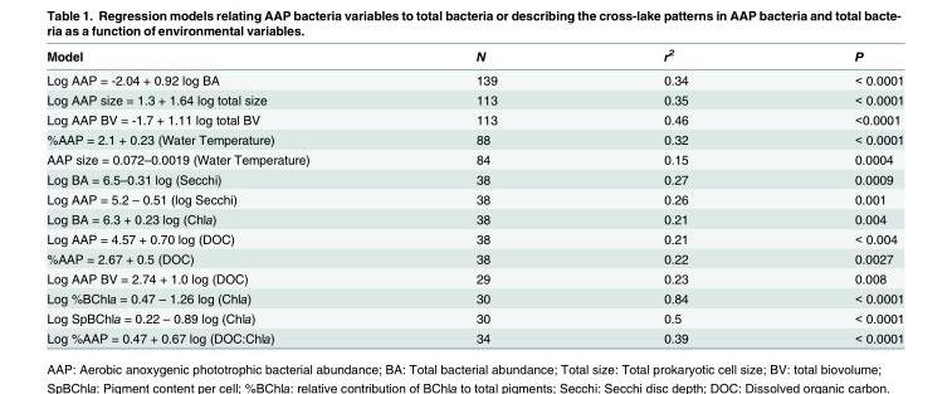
<table><thead><tr><td>Model</td><td>N</td><td>r<sup>2</sup></td><td>P</td></tr></thead><tbody><tr><td>Log AAP = -2.04 + 0.92 log BA</td><td>139</td><td>0.34</td><td>&lt; 0.0001</td></tr><tr><td>Log AAP size = 1.3 + 1.64 log total size</td><td>113</td><td>0.35</td><td>&lt; 0.0001</td></tr><tr><td>Log AAP BV = -1.7 + 1.11 log total BV</td><td>113</td><td>0.46</td><td>&lt;0.0001</td></tr><tr><td>%AAP = 2.1 + 0.23 (Water Temperature)</td><td>88</td><td>0.32</td><td>&lt; 0.0001</td></tr><tr><td>AAP size = 0.072–0.0019 (Water Temperature)</td><td>84</td><td>0.15</td><td>0.0004</td></tr><tr><td>Log BA = 6.5–0.31 log (Secchi)</td><td>38</td><td>0.27</td><td>0.0009</td></tr><tr><td>Log AAP = 5.2 – 0.51 (log Secchi)</td><td>38</td><td>0.26</td><td>0.001</td></tr><tr><td>Log BA = 6.3 + 0.23 log (Chla)</td><td>38</td><td>0.21</td><td>0.004</td></tr><tr><td>Log AAP = 4.57 + 0.70 log (DOC)</td><td>38</td><td>0.21</td><td>&lt; 0.004</td></tr><tr><td>%AAP = 2.67 + 0.5 (DOC)</td><td>38</td><td>0.22</td><td>0.0027</td></tr><tr><td>Log AAP BV = 2.74 + 1.0 log (DOC)</td><td>29</td><td>0.23</td><td>0.008</td></tr><tr><td>Log %BChla = 0.47 – 1.26 log (Chla)</td><td>30</td><td>0.84</td><td>&lt; 0.0001</td></tr><tr><td>Log SpBChla = 0.22 – 0.89 log (Chla)</td><td>30</td><td>0.5</td><td>&lt; 0.0001</td></tr><tr><td>Log %AAP = 0.47 + 0.67 log (DOC:Chla)</td><td>34</td><td>0.39</td><td>&lt; 0.0001</td></tr></tbody></table>